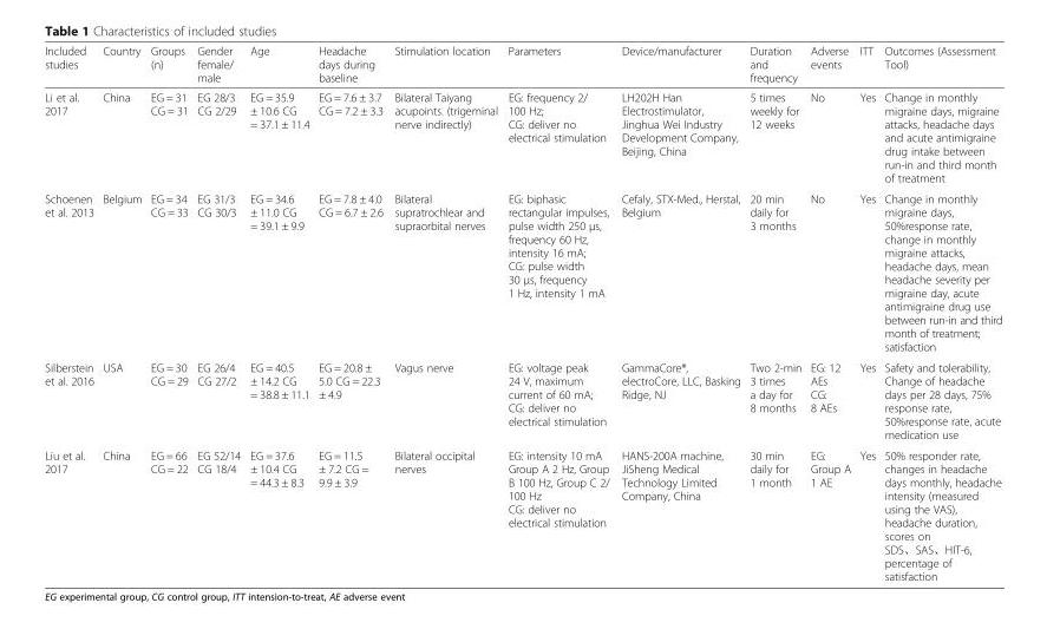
<table><thead><tr><td>Included studies</td><td>Country</td><td>Groups (n)</td><td>Gender female/ male</td><td>Age</td><td>Headache days during baseline</td><td>Stimulation location</td><td>Parameters</td><td>Device/manufacturer</td><td>Duration and frequency</td><td>Adverse events</td><td>ITT</td><td>Outcomes (Assessment Tool)</td></tr></thead><tbody><tr><td>Li et al. 2017</td><td>China</td><td>EG = 31 CG = 31</td><td>EG 28/3 CG 2/29</td><td>EG = 35.9 ± 10.6 CG = 37.1 ± 11.4</td><td>EG = 7.6 ± 3.7 CG = 7.2 ± 3.3</td><td>Bilateral Taiyang acupoints. (trigeminal nerve indirectly)</td><td>EG: frequency 2/ 100 Hz; CG: deliver no electrical stimulation</td><td>LH202H Han Electrostimulator, Jinghua Wei Industry Development Company, Beijing, China</td><td>5 times weekly for 12 weeks</td><td>No</td><td>Yes</td><td>Change in monthly migraine days, migraine attacks, headache days and acute antimigraine drug intake between run-in and third month of treatment</td></tr><tr><td>Schoenen et al. 2013</td><td>Belgium</td><td>EG = 34 CG = 33</td><td>EG 31/3 CG 30/3</td><td>EG = 34.6 ± 11.0 CG = 39.1 ± 9.9</td><td>EG = 7.8 ± 4.0 CG = 6.7 ± 2.6</td><td>Bilateral supratrochlear and supraorbital nerves</td><td>EG: biphasic rectangular impulses, pulse width 250 μs, frequency 60 Hz, intensity 16 mA; CG: pulse width 30 μs, frequency 1 Hz, intensity 1 mA</td><td>Cefaly, STX-Med., Herstal, Belgium</td><td>20 min daily for 3 months</td><td>No</td><td>Yes</td><td>Change in monthly migraine days, 50%response rate, change in monthly migraine attacks, headache days, mean headache severity per migraine day, acute antimigraine drug use between run-in and third month of treatment; satisfaction</td></tr><tr><td>Silberstein et al. 2016</td><td>USA</td><td>EG = 30 CG = 29</td><td>EG 26/4 CG 27/2</td><td>EG = 40.5 ± 14.2 CG = 38.8 ± 11.1</td><td>EG = 20.8 ± 5.0 CG = 22.3 ± 4.9</td><td>Vagus nerve</td><td>EG: voltage peak 24 V, maximum current of 60 mA; CG: deliver no electrical stimulation</td><td>GammaCore®, electroCore, LLC, Basking Ridge, NJ</td><td>Two 2-min 3 times a day for 8 months</td><td>EG: 12 AEs CG: 8 AEs</td><td>Yes</td><td>Safety and tolerability, Change of headache days per 28 days, 75% response rate, 50%response rate, acute medication use</td></tr><tr><td>Liu et al. 2017</td><td>China</td><td>EG = 66 CG = 22</td><td>EG 52/14 CG 18/4</td><td>EG = 37.6 ± 10.4 CG = 44.3 ± 8.3</td><td>EG = 11.5 ± 7.2 CG = 9.9 ± 3.9</td><td>Bilateral occipital nerves</td><td>EG: intensity 10 mA Group A 2 Hz, Group B 100 Hz, Group C 2/ 100 Hz CG: deliver no electrical stimulation</td><td>HANS-200A machine, JiSheng Medical Technology Limited Company, China</td><td>30 min daily for 1 month</td><td>EG: Group A 1 AE</td><td>Yes</td><td>50% responder rate, changes in headache days monthly, headache intensity (measured using the VAS), headache duration, scores on SDS、SAS、HIT-6, percentage of satisfaction</td></tr></tbody></table>